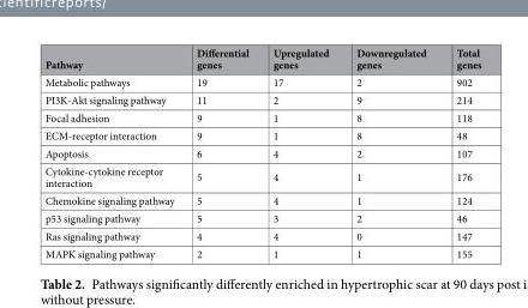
<table><thead><tr><td>Pathway</td><td>Differential genes</td><td>Upregulated genes</td><td>Downregulated genes</td><td>Total genes</td></tr></thead><tbody><tr><td>Metabolic pathways</td><td>19</td><td>17</td><td>2</td><td>902</td></tr><tr><td>PI3K-Akt signaling pathway</td><td>11</td><td>2</td><td>9</td><td>214</td></tr><tr><td>Focal adhesion</td><td>9</td><td>1</td><td>8</td><td>118</td></tr><tr><td>ECM-receptor interaction</td><td>9</td><td>1</td><td>8</td><td>48</td></tr><tr><td>Apoptosis</td><td>6</td><td>4</td><td>2</td><td>107</td></tr><tr><td>Cytokine-cytokine receptor interaction</td><td>5</td><td>4</td><td>1</td><td>176</td></tr><tr><td>Chemokine signaling pathway</td><td>5</td><td>4</td><td>1</td><td>124</td></tr><tr><td>p53 signaling pathway</td><td>5</td><td>3</td><td>2</td><td>46</td></tr><tr><td>Ras signaling pathway</td><td>4</td><td>4</td><td>0</td><td>147</td></tr><tr><td>MAPK signaling pathway</td><td>2</td><td>1</td><td>1</td><td>155</td></tr></tbody></table>